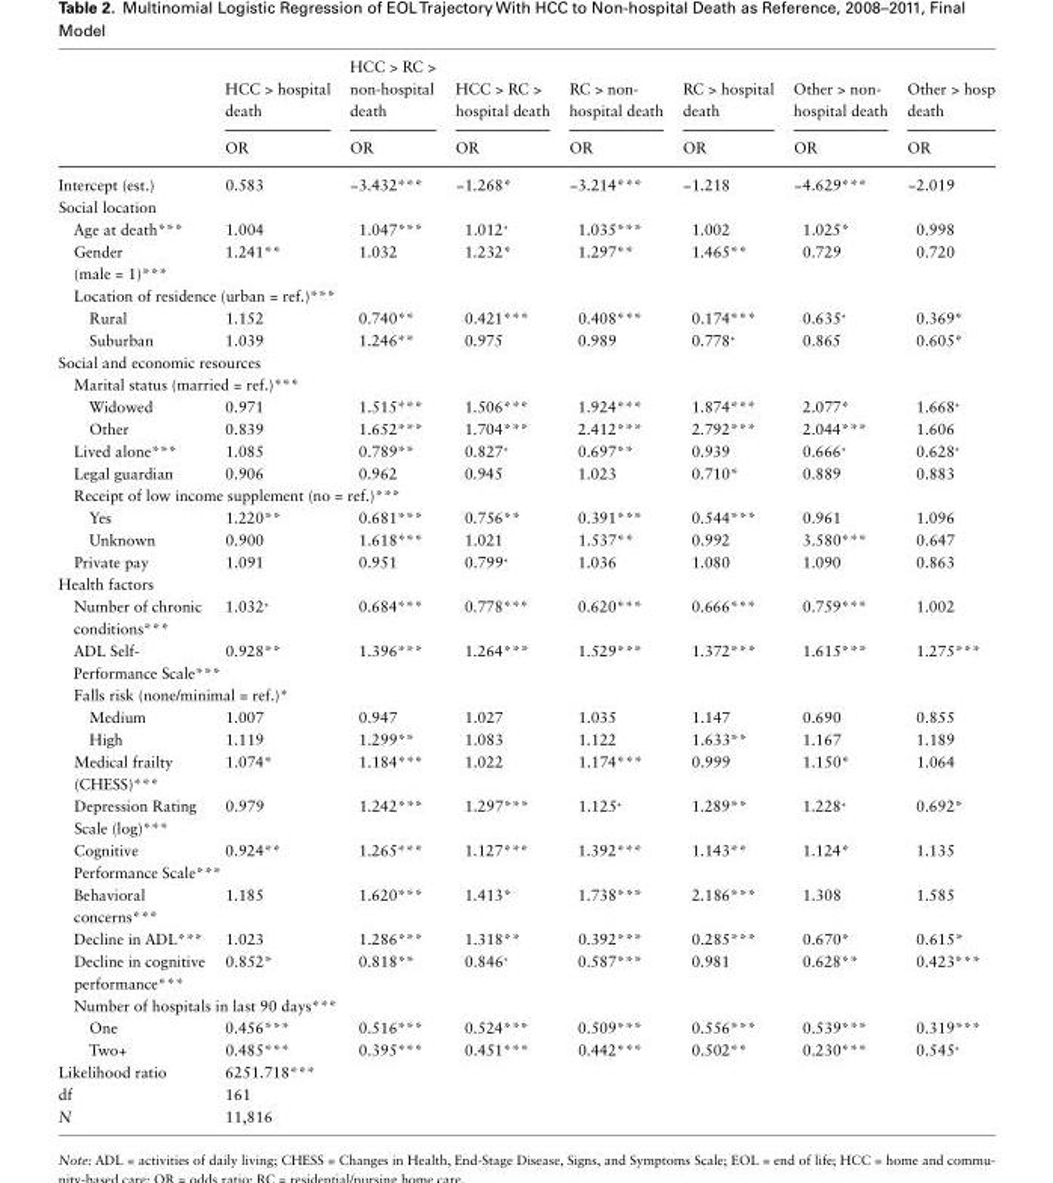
<table><thead><tr><td rowspan="2"></td><td rowspan="2">HCC &gt; hospital death OR</td><td rowspan="2">HCC &gt; RC &gt; non-hospital death OR</td><td rowspan="2">HCC &gt; RC &gt; hospital death OR</td><td rowspan="2">RC &gt; non- hospital death OR</td><td rowspan="2">RC &gt; hospital death OR</td><td rowspan="2">Other &gt; non- hospital death OR</td><td rowspan="2">Other &gt; hosp death OR</td></tr><tr></tr></thead><tbody><tr><td>Intercept (est.)</td><td>0.583</td><td>−3.432***</td><td>−1.268*</td><td>−3.214***</td><td>−1.218</td><td>−4.629***</td><td>−2.019</td></tr><tr><td colspan="8">Social location</td></tr><tr><td>Age at death***</td><td>1.004</td><td>1.047***</td><td>1.012<sup>+</sup></td><td>1.035***</td><td>1.002</td><td>1.025*</td><td>0.998</td></tr><tr><td>Gender (male = 1)***</td><td>1.241**</td><td>1.032</td><td>1.232*</td><td>1.297**</td><td>1.465**</td><td>0.729</td><td>0.720</td></tr><tr><td colspan="8">Location of residence (urban = ref.)***</td></tr><tr><td>Rural</td><td>1.152</td><td>0.740**</td><td>0.421***</td><td>0.408***</td><td>0.174***</td><td>0.635<sup>+</sup></td><td>0.369*</td></tr><tr><td>Suburban</td><td>1.039</td><td>1.246**</td><td>0.975</td><td>0.989</td><td>0.778<sup>+</sup></td><td>0.865</td><td>0.605*</td></tr><tr><td colspan="8">Social and economic resources</td></tr><tr><td colspan="8">Marital status (married = ref.)***</td></tr><tr><td>Widowed</td><td>0.971</td><td>1.515***</td><td>1.506***</td><td>1.924***</td><td>1.874***</td><td>2.077*</td><td>1.668<sup>+</sup></td></tr><tr><td>Other</td><td>0.839</td><td>1.652***</td><td>1.704***</td><td>2.412***</td><td>2.792***</td><td>2.044***</td><td>1.606</td></tr><tr><td>Lived alone***</td><td>1.085</td><td>0.789**</td><td>0.827<sup>+</sup></td><td>0.697**</td><td>0.939</td><td>0.666<sup>+</sup></td><td>0.628<sup>+</sup></td></tr><tr><td>Legal guardian</td><td>0.906</td><td>0.962</td><td>0.945</td><td>1.023</td><td>0.710*</td><td>0.889</td><td>0.883</td></tr><tr><td colspan="8">Receipt of low income supplement (no = ref.)***</td></tr><tr><td>Yes</td><td>1.220**</td><td>0.681***</td><td>0.756**</td><td>0.391***</td><td>0.544***</td><td>0.961</td><td>1.096</td></tr><tr><td>Unknown</td><td>0.900</td><td>1.618***</td><td>1.021</td><td>1.537**</td><td>0.992</td><td>3.580***</td><td>0.647</td></tr><tr><td>Private pay</td><td>1.091</td><td>0.951</td><td>0.799<sup>+</sup></td><td>1.036</td><td>1.080</td><td>1.090</td><td>0.863</td></tr><tr><td colspan="8">Health factors</td></tr><tr><td>Number of chronic conditions***</td><td>1.032<sup>+</sup></td><td>0.684***</td><td>0.778***</td><td>0.620***</td><td>0.666***</td><td>0.759***</td><td>1.002</td></tr><tr><td>ADL Self- Performance Scale***</td><td>0.928**</td><td>1.396***</td><td>1.264***</td><td>1.529***</td><td>1.372***</td><td>1.615***</td><td>1.275***</td></tr><tr><td colspan="8">Falls risk (none/minimal = ref.)*</td></tr><tr><td>Medium</td><td>1.007</td><td>0.947</td><td>1.027</td><td>1.035</td><td>1.147</td><td>0.690</td><td>0.855</td></tr><tr><td>High</td><td>1.119</td><td>1.299**</td><td>1.083</td><td>1.122</td><td>1.633**</td><td>1.167</td><td>1.189</td></tr><tr><td>Medical frailty (CHESS)***</td><td>1.074*</td><td>1.184***</td><td>1.022</td><td>1.174***</td><td>0.999</td><td>1.150*</td><td>1.064</td></tr><tr><td>Depression Rating Scale (log)***</td><td>0.979</td><td>1.242***</td><td>1.297***</td><td>1.125<sup>+</sup></td><td>1.289**</td><td>1.228<sup>+</sup></td><td>0.692*</td></tr><tr><td>Cognitive Performance Scale***</td><td>0.924**</td><td>1.265***</td><td>1.127***</td><td>1.392***</td><td>1.143**</td><td>1.124*</td><td>1.135</td></tr><tr><td>Behavioral concerns***</td><td>1.185</td><td>1.620***</td><td>1.413*</td><td>1.738***</td><td>2.186***</td><td>1.308</td><td>1.585</td></tr><tr><td>Decline in ADL***</td><td>1.023</td><td>1.286***</td><td>1.318**</td><td>0.392***</td><td>0.285***</td><td>0.670*</td><td>0.615*</td></tr><tr><td>Decline in cognitive performance***</td><td>0.852*</td><td>0.818**</td><td>0.846<sup>+</sup></td><td>0.587***</td><td>0.981</td><td>0.628**</td><td>0.423***</td></tr><tr><td colspan="8">Number of hospitals in last 90 days***</td></tr><tr><td>One</td><td>0.456***</td><td>0.516***</td><td>0.524***</td><td>0.509***</td><td>0.556***</td><td>0.539***</td><td>0.319***</td></tr><tr><td>Two+</td><td>0.485***</td><td>0.395***</td><td>0.451***</td><td>0.442***</td><td>0.502**</td><td>0.230***</td><td>0.545<sup>+</sup></td></tr><tr><td>Likelihood ratio</td><td>6251.718***</td><td></td><td></td><td></td><td></td><td></td><td></td></tr><tr><td>df</td><td>161</td><td></td><td></td><td></td><td></td><td></td><td></td></tr><tr><td>N</td><td>11,816</td><td></td><td></td><td></td><td></td><td></td><td></td></tr></tbody></table>